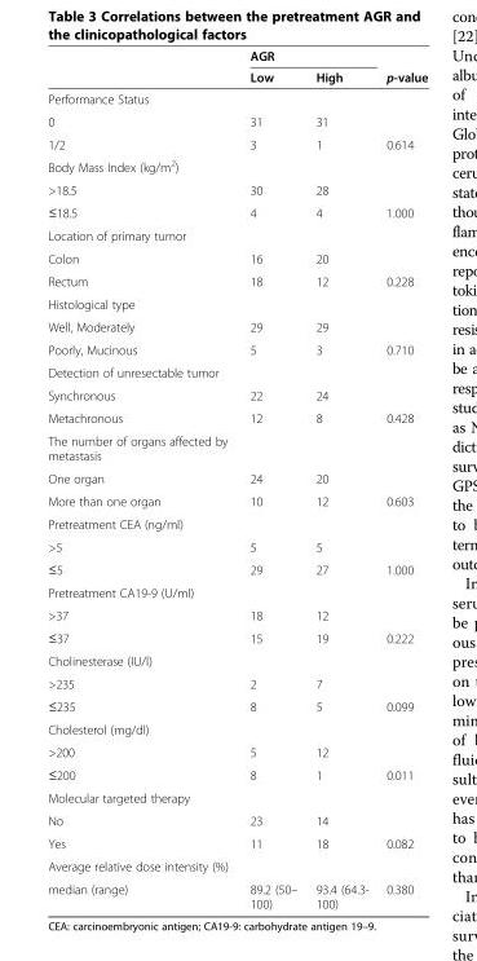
<table><thead><tr><td rowspan="2"></td><td colspan="2">AGR</td><td rowspan="2">p-value</td></tr><tr><td>Low</td><td>High</td></tr></thead><tbody><tr><td colspan="4">Performance Status</td></tr><tr><td>0</td><td>31</td><td>31</td><td></td></tr><tr><td>1/2</td><td>3</td><td>1</td><td>0.614</td></tr><tr><td colspan="4">Body Mass Index (kg/m<sup>2</sup>)</td></tr><tr><td>&gt;18.5</td><td>30</td><td>28</td><td></td></tr><tr><td>≤18.5</td><td>4</td><td>4</td><td>1.000</td></tr><tr><td colspan="4">Location of primary tumor</td></tr><tr><td>Colon</td><td>16</td><td>20</td><td></td></tr><tr><td>Rectum</td><td>18</td><td>12</td><td>0.228</td></tr><tr><td colspan="4">Histological type</td></tr><tr><td>Well, Moderately</td><td>29</td><td>29</td><td></td></tr><tr><td>Poorly, Mucinous</td><td>5</td><td>3</td><td>0.710</td></tr><tr><td colspan="4">Detection of unresectable tumor</td></tr><tr><td>Synchronous</td><td>22</td><td>24</td><td></td></tr><tr><td>Metachronous</td><td>12</td><td>8</td><td>0.428</td></tr><tr><td colspan="4">The number of organs affected by metastasis</td></tr><tr><td>One organ</td><td>24</td><td>20</td><td></td></tr><tr><td>More than one organ</td><td>10</td><td>12</td><td>0.603</td></tr><tr><td colspan="4">Pretreatment CEA (ng/ml)</td></tr><tr><td>&gt;5</td><td>5</td><td>5</td><td></td></tr><tr><td>≤5</td><td>29</td><td>27</td><td>1.000</td></tr><tr><td colspan="4">Pretreatment CA19-9 (U/ml)</td></tr><tr><td>&gt;37</td><td>18</td><td>12</td><td></td></tr><tr><td>≤37</td><td>15</td><td>19</td><td>0.222</td></tr><tr><td colspan="4">Cholinesterase (IU/l)</td></tr><tr><td>&gt;235</td><td>2</td><td>7</td><td></td></tr><tr><td>≤235</td><td>8</td><td>5</td><td>0.099</td></tr><tr><td colspan="4">Cholesterol (mg/dl)</td></tr><tr><td>&gt;200</td><td>5</td><td>12</td><td></td></tr><tr><td>≤200</td><td>8</td><td>1</td><td>0.011</td></tr><tr><td colspan="4">Molecular targeted therapy</td></tr><tr><td>No</td><td>23</td><td>14</td><td></td></tr><tr><td>Yes</td><td>11</td><td>18</td><td>0.082</td></tr><tr><td colspan="4">Average relative dose intensity (%)</td></tr><tr><td>median (range)</td><td>89.2 (50– 100)</td><td>93.4 (64.3- 100)</td><td>0.380</td></tr></tbody></table>